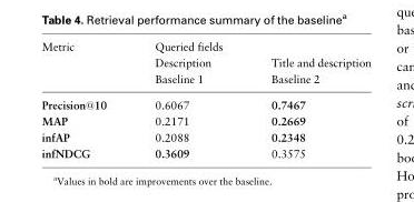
<table><thead><tr><td rowspan="3">Metric</td><td rowspan="3">Queried fields Description Baseline 1</td><td rowspan="3">Title and description Baseline 2</td></tr><tr></tr><tr></tr></thead><tbody><tr><td>Precision@10</td><td>0.6067</td><td>0.7467</td></tr><tr><td>MAP</td><td>0.2171</td><td>0.2669</td></tr><tr><td>infAP</td><td>0.2088</td><td>0.2348</td></tr><tr><td>infNDCG</td><td>0.3609</td><td>0.3575</td></tr></tbody></table>